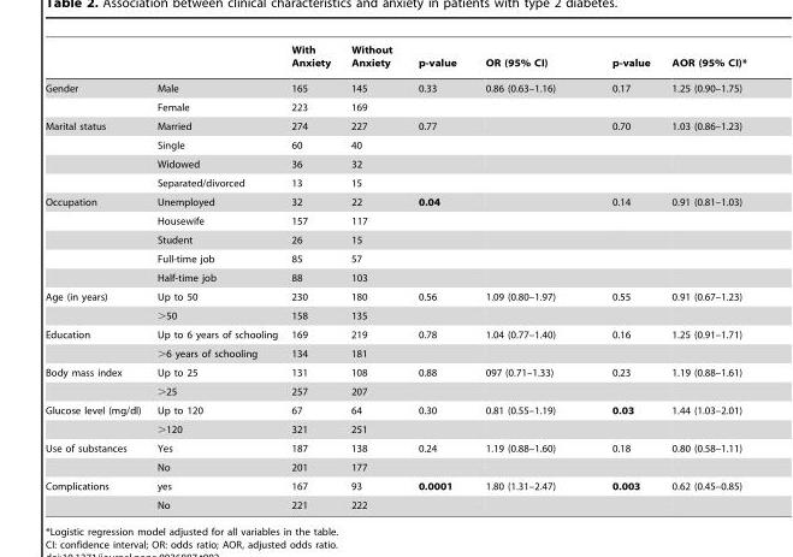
<table><thead><tr><td></td><td></td><td>With Anxiety</td><td>Without Anxiety</td><td>p-value</td><td>OR (95% CI)</td><td>p-value</td><td>AOR (95% CI)*</td></tr></thead><tbody><tr><td rowspan="2">Gender</td><td>Male</td><td>165</td><td>145</td><td>0.33</td><td>0.86 (0.63–1.16)</td><td>0.17</td><td>1.25 (0.90–1.75)</td></tr><tr><td>Female</td><td>223</td><td>169</td><td></td><td></td><td></td><td></td></tr><tr><td rowspan="4">Marital status</td><td>Married</td><td>274</td><td>227</td><td>0.77</td><td></td><td>0.70</td><td>1.03 (0.86–1.23)</td></tr><tr><td>Single</td><td>60</td><td>40</td><td></td><td></td><td></td><td></td></tr><tr><td>Widowed</td><td>36</td><td>32</td><td></td><td></td><td></td><td></td></tr><tr><td>Separated/divorced</td><td>13</td><td>15</td><td></td><td></td><td></td><td></td></tr><tr><td rowspan="5">Occupation</td><td>Unemployed</td><td>32</td><td>22</td><td>0.04</td><td></td><td>0.14</td><td>0.91 (0.81–1.03)</td></tr><tr><td>Housewife</td><td>157</td><td>117</td><td></td><td></td><td></td><td></td></tr><tr><td>Student</td><td>26</td><td>15</td><td></td><td></td><td></td><td></td></tr><tr><td>Full-time job</td><td>85</td><td>57</td><td></td><td></td><td></td><td></td></tr><tr><td>Half-time job</td><td>88</td><td>103</td><td></td><td></td><td></td><td></td></tr><tr><td rowspan="2">Age (in years)</td><td>Up to 50</td><td>230</td><td>180</td><td>0.56</td><td>1.09 (0.80–1.97)</td><td>0.55</td><td>0.91 (0.67–1.23)</td></tr><tr><td>&gt;50</td><td>158</td><td>135</td><td></td><td></td><td></td><td></td></tr><tr><td rowspan="2">Education</td><td>Up to 6 years of schooling</td><td>169</td><td>219</td><td>0.78</td><td>1.04 (0.77–1.40)</td><td>0.16</td><td>1.25 (0.91–1.71)</td></tr><tr><td>&gt;6 years of schooling</td><td>134</td><td>181</td><td></td><td></td><td></td><td></td></tr><tr><td rowspan="2">Body mass index</td><td>Up to 25</td><td>131</td><td>108</td><td>0.88</td><td>097 (0.71–1.33)</td><td>0.23</td><td>1.19 (0.88–1.61)</td></tr><tr><td>&gt;25</td><td>257</td><td>207</td><td></td><td></td><td></td><td></td></tr><tr><td rowspan="2">Glucose level (mg/dl)</td><td>Up to 120</td><td>67</td><td>64</td><td>0.30</td><td>0.81 (0.55–1.19)</td><td>0.03</td><td>1.44 (1.03–2.01)</td></tr><tr><td>&gt;120</td><td>321</td><td>251</td><td></td><td></td><td></td><td></td></tr><tr><td rowspan="2">Use of substances</td><td>Yes</td><td>187</td><td>138</td><td>0.24</td><td>1.19 (0.88–1.60)</td><td>0.18</td><td>0.80 (0.58–1.11)</td></tr><tr><td>No</td><td>201</td><td>177</td><td></td><td></td><td></td><td></td></tr><tr><td rowspan="2">Complications</td><td>yes</td><td>167</td><td>93</td><td>0.0001</td><td>1.80 (1.31–2.47)</td><td>0.003</td><td>0.62 (0.45–0.85)</td></tr><tr><td>No</td><td>221</td><td>222</td><td></td><td></td><td></td><td></td></tr></tbody></table>